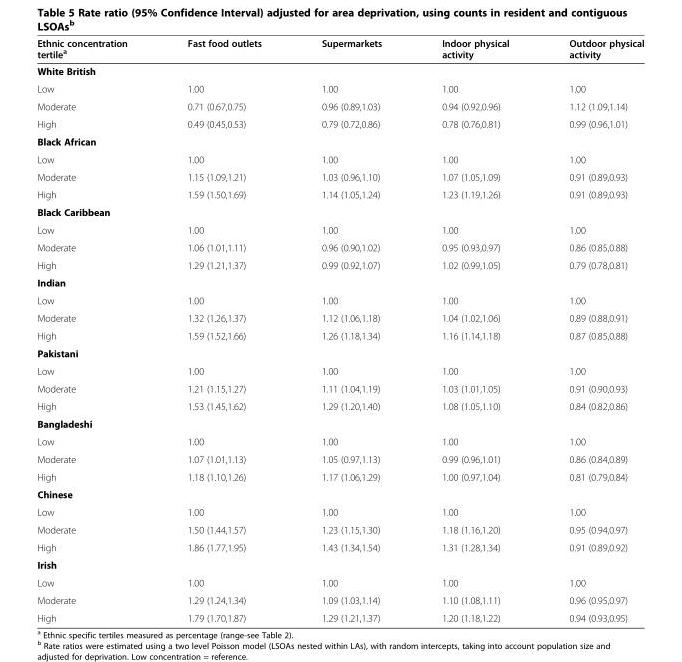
<table><thead><tr><td>Ethnic concentration tertile<sup>a</sup></td><td>Fast food outlets</td><td>Supermarkets</td><td>Indoor physical activity</td><td>Outdoor physical activity</td></tr></thead><tbody><tr><td colspan="5">White British</td></tr><tr><td>Low</td><td>1.00</td><td>1.00</td><td>1.00</td><td>1.00</td></tr><tr><td>Moderate</td><td>0.71 (0.67,0.75)</td><td>0.96 (0.89,1.03)</td><td>0.94 (0.92,0.96)</td><td>1.12 (1.09,1.14)</td></tr><tr><td>High</td><td>0.49 (0.45,0.53)</td><td>0.79 (0.72,0.86)</td><td>0.78 (0.76,0.81)</td><td>0.99 (0.96,1.01)</td></tr><tr><td colspan="5">Black African</td></tr><tr><td>Low</td><td>1.00</td><td>1.00</td><td>1.00</td><td>1.00</td></tr><tr><td>Moderate</td><td>1.15 (1.09,1.21)</td><td>1.03 (0.96,1.10)</td><td>1.07 (1.05,1.09)</td><td>0.91 (0.89,0.93)</td></tr><tr><td>High</td><td>1.59 (1.50,1.69)</td><td>1.14 (1.05,1.24)</td><td>1.23 (1.19,1.26)</td><td>0.91 (0.89,0.93)</td></tr><tr><td colspan="5">Black Caribbean</td></tr><tr><td>Low</td><td>1.00</td><td>1.00</td><td>1.00</td><td>1.00</td></tr><tr><td>Moderate</td><td>1.06 (1.01,1.11)</td><td>0.96 (0.90,1.02)</td><td>0.95 (0.93,0.97)</td><td>0.86 (0.85,0.88)</td></tr><tr><td>High</td><td>1.29 (1.21,1.37)</td><td>0.99 (0.92,1.07)</td><td>1.02 (0.99,1.05)</td><td>0.79 (0.78,0.81)</td></tr><tr><td colspan="5">Indian</td></tr><tr><td>Low</td><td>1.00</td><td>1.00</td><td>1.00</td><td>1.00</td></tr><tr><td>Moderate</td><td>1.32 (1.26,1.37)</td><td>1.12 (1.06,1.18)</td><td>1.04 (1.02,1.06)</td><td>0.89 (0.88,0.91)</td></tr><tr><td>High</td><td>1.59 (1.52,1.66)</td><td>1.26 (1.18,1.34)</td><td>1.16 (1.14,1.18)</td><td>0.87 (0.85,0.88)</td></tr><tr><td colspan="5">Pakistani</td></tr><tr><td>Low</td><td>1.00</td><td>1.00</td><td>1.00</td><td>1.00</td></tr><tr><td>Moderate</td><td>1.21 (1.15,1.27)</td><td>1.11 (1.04,1.19)</td><td>1.03 (1.01,1.05)</td><td>0.91 (0.90,0.93)</td></tr><tr><td>High</td><td>1.53 (1.45,1.62)</td><td>1.29 (1.20,1.40)</td><td>1.08 (1.05,1.10)</td><td>0.84 (0.82,0.86)</td></tr><tr><td colspan="5">Bangladeshi</td></tr><tr><td>Low</td><td>1.00</td><td>1.00</td><td>1.00</td><td>1.00</td></tr><tr><td>Moderate</td><td>1.07 (1.01,1.13)</td><td>1.05 (0.97,1.13)</td><td>0.99 (0.96,1.01)</td><td>0.86 (0.84,0.89)</td></tr><tr><td>High</td><td>1.18 (1.10,1.26)</td><td>1.17 (1.06,1.29)</td><td>1.00 (0.97,1.04)</td><td>0.81 (0.79,0.84)</td></tr><tr><td colspan="5">Chinese</td></tr><tr><td>Low</td><td>1.00</td><td>1.00</td><td>1.00</td><td>1.00</td></tr><tr><td>Moderate</td><td>1.50 (1.44,1.57)</td><td>1.23 (1.15,1.30)</td><td>1.18 (1.16,1.20)</td><td>0.95 (0.94,0.97)</td></tr><tr><td>High</td><td>1.86 (1.77,1.95)</td><td>1.43 (1.34,1.54)</td><td>1.31 (1.28,1.34)</td><td>0.91 (0.89,0.92)</td></tr><tr><td colspan="5">Irish</td></tr><tr><td>Low</td><td>1.00</td><td>1.00</td><td>1.00</td><td>1.00</td></tr><tr><td>Moderate</td><td>1.29 (1.24,1.34)</td><td>1.09 (1.03,1.14)</td><td>1.10 (1.08,1.11)</td><td>0.96 (0.95,0.97)</td></tr><tr><td>High</td><td>1.79 (1.70,1.87)</td><td>1.29 (1.21,1.37)</td><td>1.20 (1.18,1.22)</td><td>0.94 (0.93,0.95)</td></tr></tbody></table>